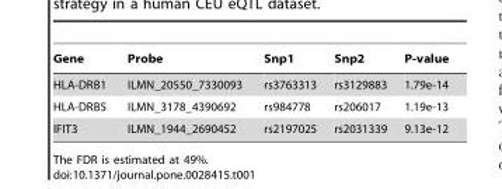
<table><thead><tr><td>Gene</td><td>Probe</td><td>Snp1</td><td>Snp2</td><td>P-value</td></tr></thead><tbody><tr><td>HLA-DRB1</td><td>ILMN_20550_7330093</td><td>rs3763313</td><td>rs3129883</td><td>1.79e-14</td></tr><tr><td>HLA-DRB5</td><td>ILMN_3178_4390692</td><td>rs984778</td><td>rs206017</td><td>1.19e-13</td></tr><tr><td>IFIT3</td><td>ILMN_1944_2690452</td><td>rs2197025</td><td>rs2031339</td><td>9.13e-12</td></tr></tbody></table>